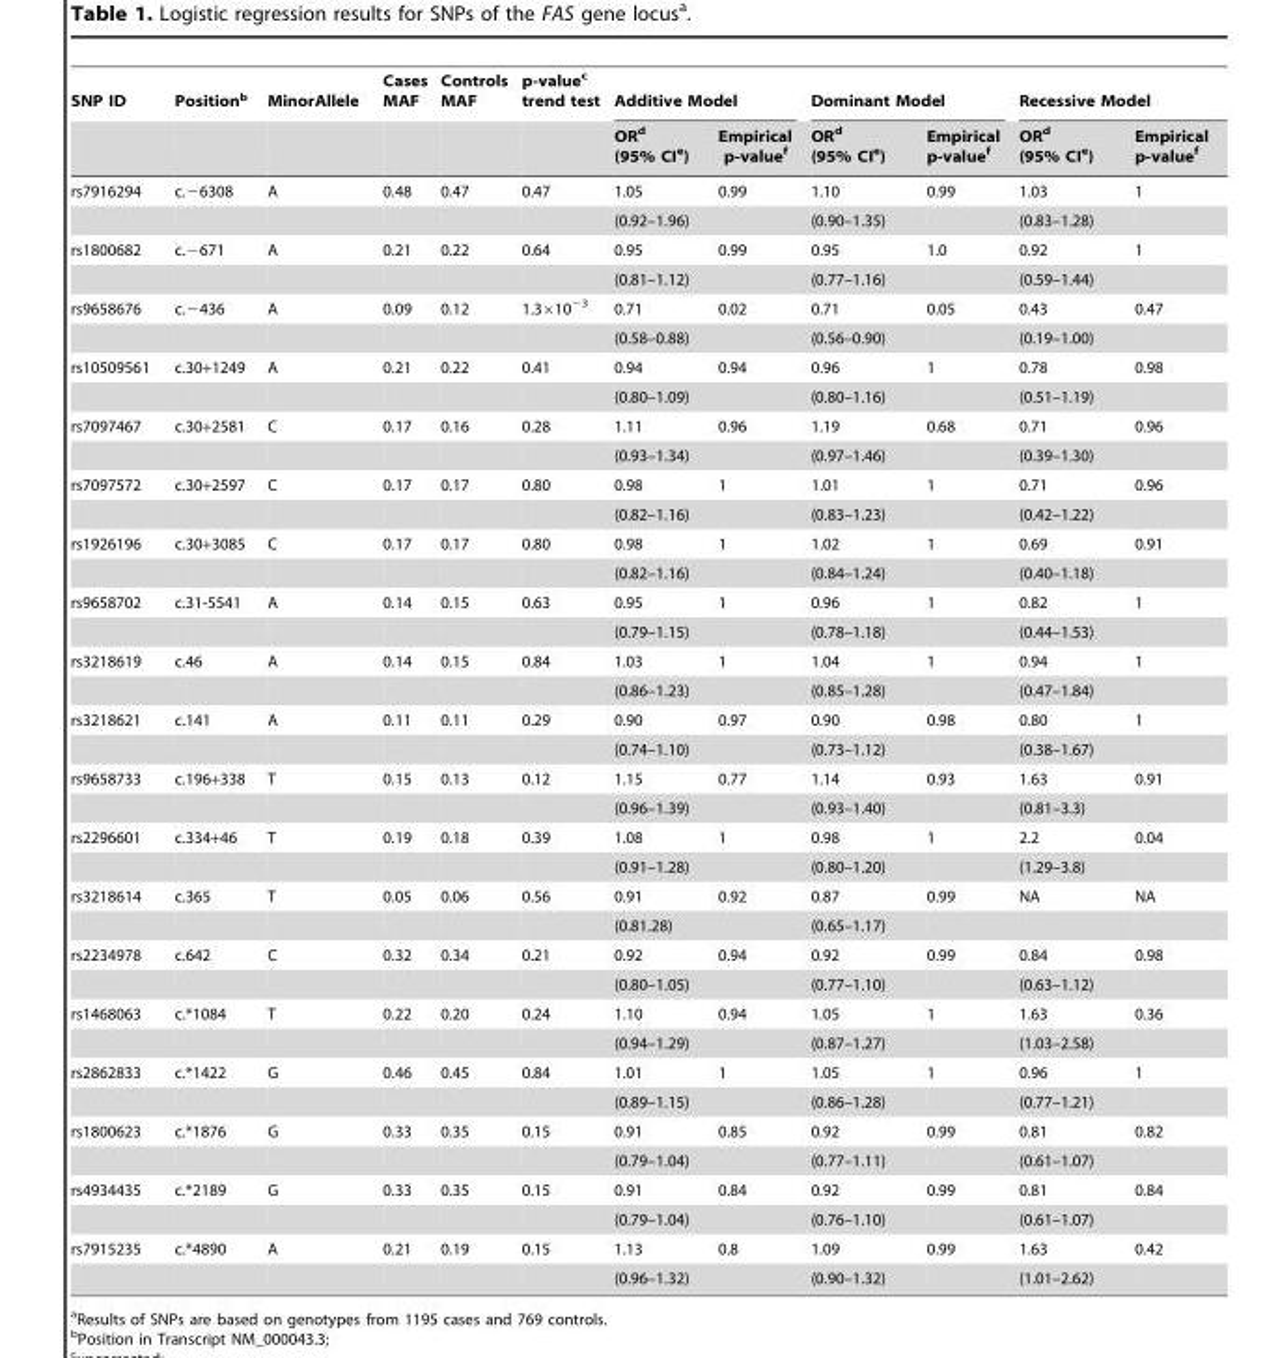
<table><thead><tr><td rowspan="2">SNP ID</td><td rowspan="2">Position<sup>b</sup></td><td rowspan="2">MinorAllele</td><td rowspan="2">Cases MAF</td><td rowspan="2">Controls MAF</td><td rowspan="2">p-value<sup>c</sup> trend test</td><td colspan="2">Additive Model</td><td colspan="2">Dominant Model</td><td colspan="2">Recessive Model</td></tr><tr><td>OR<sup>d</sup> (95% CI<sup>e</sup>)</td><td>Empirical p-value<sup>f</sup></td><td>OR<sup>d</sup> (95% CI<sup>e</sup>)</td><td>Empirical p-value<sup>f</sup></td><td>OR<sup>d</sup> (95% CI<sup>e</sup>)</td><td>Empirical p-value<sup>f</sup></td></tr></thead><tbody><tr><td rowspan="2">rs7916294</td><td>c.−6308</td><td>A</td><td>0.48</td><td>0.47</td><td>0.47</td><td>1.05</td><td>0.99</td><td>1.10</td><td>0.99</td><td>1.03</td><td>1</td></tr><tr><td></td><td></td><td></td><td></td><td></td><td>(0.92–1.96)</td><td></td><td>(0.90–1.35)</td><td></td><td>(0.83–1.28)</td><td></td></tr><tr><td rowspan="2">rs1800682</td><td>c.−671</td><td>A</td><td>0.21</td><td>0.22</td><td>0.64</td><td>0.95</td><td>0.99</td><td>0.95</td><td>1.0</td><td>0.92</td><td>1</td></tr><tr><td></td><td></td><td></td><td></td><td></td><td>(0.81–1.12)</td><td></td><td>(0.77–1.16)</td><td></td><td>(0.59–1.44)</td><td></td></tr><tr><td rowspan="2">rs9658676</td><td>c.−436</td><td>A</td><td>0.09</td><td>0.12</td><td>1.3×10<sup>−3</sup></td><td>0.71</td><td>0.02</td><td>0.71</td><td>0.05</td><td>0.43</td><td>0.47</td></tr><tr><td></td><td></td><td></td><td></td><td></td><td>(0.58–0.88)</td><td></td><td>(0.56–0.90)</td><td></td><td>(0.19–1.00)</td><td></td></tr><tr><td rowspan="2">rs10509561</td><td>c.30+1249</td><td>A</td><td>0.21</td><td>0.22</td><td>0.41</td><td>0.94</td><td>0.94</td><td>0.96</td><td>1</td><td>0.78</td><td>0.98</td></tr><tr><td></td><td></td><td></td><td></td><td></td><td>(0.80–1.09)</td><td></td><td>(0.80–1.16)</td><td></td><td>(0.51–1.19)</td><td></td></tr><tr><td rowspan="2">rs7097467</td><td>c.30+2581</td><td>C</td><td>0.17</td><td>0.16</td><td>0.28</td><td>1.11</td><td>0.96</td><td>1.19</td><td>0.68</td><td>0.71</td><td>0.96</td></tr><tr><td></td><td></td><td></td><td></td><td></td><td>(0.93–1.34)</td><td></td><td>(0.97–1.46)</td><td></td><td>(0.39–1.30)</td><td></td></tr><tr><td rowspan="2">rs7097572</td><td>c.30+2597</td><td>C</td><td>0.17</td><td>0.17</td><td>0.80</td><td>0.98</td><td>1</td><td>1.01</td><td>1</td><td>0.71</td><td>0.96</td></tr><tr><td></td><td></td><td></td><td></td><td></td><td>(0.82–1.16)</td><td></td><td>(0.83–1.23)</td><td></td><td>(0.42–1.22)</td><td></td></tr><tr><td rowspan="2">rs1926196</td><td>c.30+3085</td><td>C</td><td>0.17</td><td>0.17</td><td>0.80</td><td>0.98</td><td>1</td><td>1.02</td><td>1</td><td>0.69</td><td>0.91</td></tr><tr><td></td><td></td><td></td><td></td><td></td><td>(0.82–1.16)</td><td></td><td>(0.84–1.24)</td><td></td><td>(0.40–1.18)</td><td></td></tr><tr><td rowspan="2">rs9658702</td><td>c.31-5541</td><td>A</td><td>0.14</td><td>0.15</td><td>0.63</td><td>0.95</td><td>1</td><td>0.96</td><td>1</td><td>0.82</td><td>1</td></tr><tr><td></td><td></td><td></td><td></td><td></td><td>(0.79–1.15)</td><td></td><td>(0.78–1.18)</td><td></td><td>(0.44–1.53)</td><td></td></tr><tr><td rowspan="2">rs3218619</td><td>c.46</td><td>A</td><td>0.14</td><td>0.15</td><td>0.84</td><td>1.03</td><td>1</td><td>1.04</td><td>1</td><td>0.94</td><td>1</td></tr><tr><td></td><td></td><td></td><td></td><td></td><td>(0.86–1.23)</td><td></td><td>(0.85–1.28)</td><td></td><td>(0.47–1.84)</td><td></td></tr><tr><td rowspan="2">rs3218621</td><td>c.141</td><td>A</td><td>0.11</td><td>0.11</td><td>0.29</td><td>0.90</td><td>0.97</td><td>0.90</td><td>0.98</td><td>0.80</td><td>1</td></tr><tr><td></td><td></td><td></td><td></td><td></td><td>(0.74–1.10)</td><td></td><td>(0.73–1.12)</td><td></td><td>(0.38–1.67)</td><td></td></tr><tr><td rowspan="2">rs9658733</td><td>c.196+338</td><td>T</td><td>0.15</td><td>0.13</td><td>0.12</td><td>1.15</td><td>0.77</td><td>1.14</td><td>0.93</td><td>1.63</td><td>0.91</td></tr><tr><td></td><td></td><td></td><td></td><td></td><td>(0.96–1.39)</td><td></td><td>(0.93–1.40)</td><td></td><td>(0.81–3.3)</td><td></td></tr><tr><td rowspan="2">rs2296601</td><td>c.334+46</td><td>T</td><td>0.19</td><td>0.18</td><td>0.39</td><td>1.08</td><td>1</td><td>0.98</td><td>1</td><td>2.2</td><td>0.04</td></tr><tr><td></td><td></td><td></td><td></td><td></td><td>(0.91–1.28)</td><td></td><td>(0.80–1.20)</td><td></td><td>(1.29–3.8)</td><td></td></tr><tr><td rowspan="2">rs3218614</td><td>c.365</td><td>T</td><td>0.05</td><td>0.06</td><td>0.56</td><td>0.91</td><td>0.92</td><td>0.87</td><td>0.99</td><td>NA</td><td>NA</td></tr><tr><td></td><td></td><td></td><td></td><td></td><td>(0.81.28)</td><td></td><td>(0.65–1.17)</td><td></td><td></td><td></td></tr><tr><td rowspan="2">rs2234978</td><td>c.642</td><td>C</td><td>0.32</td><td>0.34</td><td>0.21</td><td>0.92</td><td>0.94</td><td>0.92</td><td>0.99</td><td>0.84</td><td>0.98</td></tr><tr><td></td><td></td><td></td><td></td><td></td><td>(0.80–1.05)</td><td></td><td>(0.77–1.10)</td><td></td><td>(0.63–1.12)</td><td></td></tr><tr><td rowspan="2">rs1468063</td><td>c.*1084</td><td>T</td><td>0.22</td><td>0.20</td><td>0.24</td><td>1.10</td><td>0.94</td><td>1.05</td><td>1</td><td>1.63</td><td>0.36</td></tr><tr><td></td><td></td><td></td><td></td><td></td><td>(0.94–1.29)</td><td></td><td>(0.87–1.27)</td><td></td><td>(1.03–2.58)</td><td></td></tr><tr><td rowspan="2">rs2862833</td><td>c.*1422</td><td>G</td><td>0.46</td><td>0.45</td><td>0.84</td><td>1.01</td><td>1</td><td>1.05</td><td>1</td><td>0.96</td><td>1</td></tr><tr><td></td><td></td><td></td><td></td><td></td><td>(0.89–1.15)</td><td></td><td>(0.86–1.28)</td><td></td><td>(0.77–1.21)</td><td></td></tr><tr><td rowspan="2">rs1800623</td><td>c.*1876</td><td>G</td><td>0.33</td><td>0.35</td><td>0.15</td><td>0.91</td><td>0.85</td><td>0.92</td><td>0.99</td><td>0.81</td><td>0.82</td></tr><tr><td></td><td></td><td></td><td></td><td></td><td>(0.79–1.04)</td><td></td><td>(0.77–1.11)</td><td></td><td>(0.61–1.07)</td><td></td></tr><tr><td rowspan="2">rs4934435</td><td>c.*2189</td><td>G</td><td>0.33</td><td>0.35</td><td>0.15</td><td>0.91</td><td>0.84</td><td>0.92</td><td>0.99</td><td>0.81</td><td>0.84</td></tr><tr><td></td><td></td><td></td><td></td><td></td><td>(0.79–1.04)</td><td></td><td>(0.76–1.10)</td><td></td><td>(0.61–1.07)</td><td></td></tr><tr><td rowspan="2">rs7915235</td><td>c.*4890</td><td>A</td><td>0.21</td><td>0.19</td><td>0.15</td><td>1.13</td><td>0.8</td><td>1.09</td><td>0.99</td><td>1.63</td><td>0.42</td></tr><tr><td></td><td></td><td></td><td></td><td></td><td>(0.96–1.32)</td><td></td><td>(0.90–1.32)</td><td></td><td>(1.01–2.62)</td><td></td></tr></tbody></table>